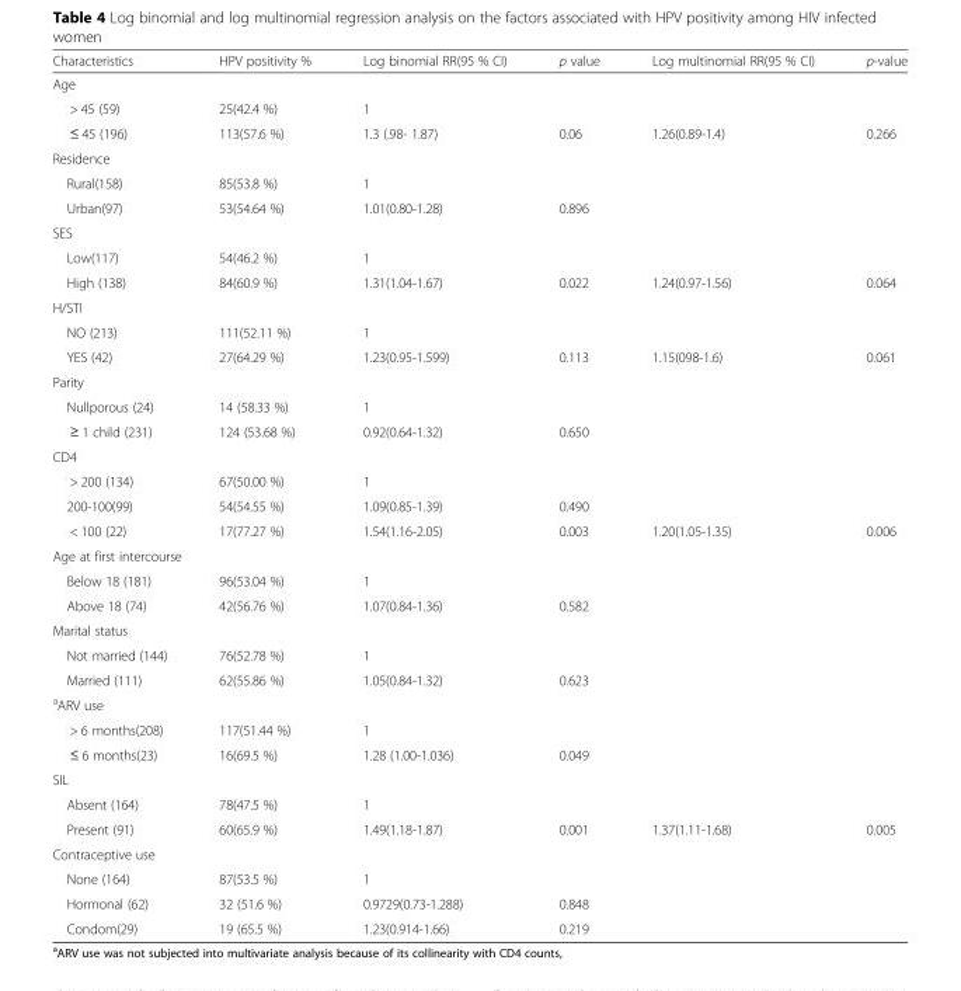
<table><thead><tr><td>Characteristics</td><td>HPV positivity %</td><td>Log binomial RR(95 % CI)</td><td>p value</td><td>Log multinomial RR(95 % CI)</td><td>p-value</td></tr></thead><tbody><tr><td colspan="6">Age</td></tr><tr><td>&gt; 45 (59)</td><td>25(42.4 %)</td><td>1</td><td></td><td></td><td></td></tr><tr><td>≤ 45 (196)</td><td>113(57.6 %)</td><td>1.3 (.98- 1.87)</td><td>0.06</td><td>1.26(0.89-1.4)</td><td>0.266</td></tr><tr><td colspan="6">Residence</td></tr><tr><td>Rural(158)</td><td>85(53.8 %)</td><td>1</td><td></td><td></td><td></td></tr><tr><td>Urban(97)</td><td>53(54.64 %)</td><td>1.01(0.80-1.28)</td><td>0.896</td><td></td><td></td></tr><tr><td colspan="6">SES</td></tr><tr><td>Low(117)</td><td>54(46.2 %)</td><td>1</td><td></td><td></td><td></td></tr><tr><td>High (138)</td><td>84(60.9 %)</td><td>1.31(1.04-1.67)</td><td>0.022</td><td>1.24(0.97-1.56)</td><td>0.064</td></tr><tr><td colspan="6">H/STI</td></tr><tr><td>NO (213)</td><td>111(52.11 %)</td><td>1</td><td></td><td></td><td></td></tr><tr><td>YES (42)</td><td>27(64.29 %)</td><td>1.23(0.95-1.599)</td><td>0.113</td><td>1.15(098-1.6)</td><td>0.061</td></tr><tr><td colspan="6">Parity</td></tr><tr><td>Nullporous (24)</td><td>14 (58.33 %)</td><td>1</td><td></td><td></td><td></td></tr><tr><td>≥ 1 child (231)</td><td>124 (53.68 %)</td><td>0.92(0.64-1.32)</td><td>0.650</td><td></td><td></td></tr><tr><td colspan="6">CD4</td></tr><tr><td>&gt; 200 (134)</td><td>67(50.00 %)</td><td>1</td><td></td><td></td><td></td></tr><tr><td>200-100(99)</td><td>54(54.55 %)</td><td>1.09(0.85-1.39)</td><td>0.490</td><td></td><td></td></tr><tr><td>&lt; 100 (22)</td><td>17(77.27 %)</td><td>1.54(1.16-2.05)</td><td>0.003</td><td>1.20(1.05-1.35)</td><td>0.006</td></tr><tr><td colspan="6">Age at first intercourse</td></tr><tr><td>Below 18 (181)</td><td>96(53.04 %)</td><td>1</td><td></td><td></td><td></td></tr><tr><td>Above 18 (74)</td><td>42(56.76 %)</td><td>1.07(0.84-1.36)</td><td>0.582</td><td></td><td></td></tr><tr><td colspan="6">Marital status</td></tr><tr><td>Not married (144)</td><td>76(52.78 %)</td><td>1</td><td></td><td></td><td></td></tr><tr><td>Married (111)</td><td>62(55.86 %)</td><td>1.05(0.84-1.32)</td><td>0.623</td><td></td><td></td></tr><tr><td colspan="6"><sup>a</sup>ARV use</td></tr><tr><td>&gt; 6 months(208)</td><td>117(51.44 %)</td><td>1</td><td></td><td></td><td></td></tr><tr><td>≤ 6 months(23)</td><td>16(69.5 %)</td><td>1.28 (1.00-1.036)</td><td>0.049</td><td></td><td></td></tr><tr><td colspan="6">SIL</td></tr><tr><td>Absent (164)</td><td>78(47.5 %)</td><td>1</td><td></td><td></td><td></td></tr><tr><td>Present (91)</td><td>60(65.9 %)</td><td>1.49(1.18-1.87)</td><td>0.001</td><td>1.37(1.11-1.68)</td><td>0.005</td></tr><tr><td colspan="6">Contraceptive use</td></tr><tr><td>None (164)</td><td>87(53.5 %)</td><td>1</td><td></td><td></td><td></td></tr><tr><td>Hormonal (62)</td><td>32 (51.6 %)</td><td>0.9729(0.73-1.288)</td><td>0.848</td><td></td><td></td></tr><tr><td>Condom(29)</td><td>19 (65.5 %)</td><td>1.23(0.914-1.66)</td><td>0.219</td><td></td><td></td></tr></tbody></table>